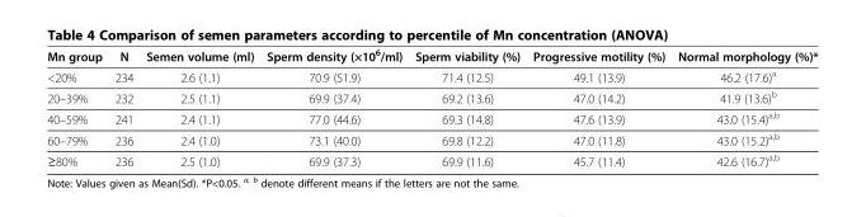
<table><thead><tr><td>Mn group</td><td>N</td><td>Semen volume (ml)</td><td>Sperm density (×10<sup>6</sup>/ml)</td><td>Sperm viability (%)</td><td>Progressive motility (%)</td><td>Normal morphology (%)*</td></tr></thead><tbody><tr><td>&lt;20%</td><td>234</td><td>2.6 (1.1)</td><td>70.9 (51.9)</td><td>71.4 (12.5)</td><td>49.1 (13.9)</td><td>46.2 (17.6)<sup>a</sup></td></tr><tr><td>20–39%</td><td>232</td><td>2.5 (1.1)</td><td>69.9 (37.4)</td><td>69.2 (13.6)</td><td>47.0 (14.2)</td><td>41.9 (13.6)<sup>b</sup></td></tr><tr><td>40–59%</td><td>241</td><td>2.4 (1.1)</td><td>77.0 (44.6)</td><td>69.3 (14.8)</td><td>47.6 (13.9)</td><td>43.0 (15.4)<sup>a,b</sup></td></tr><tr><td>60–79%</td><td>236</td><td>2.4 (1.0)</td><td>73.1 (40.0)</td><td>69.8 (12.2)</td><td>47.0 (11.8)</td><td>43.0 (15.2)<sup>a,b</sup></td></tr><tr><td>≥80%</td><td>236</td><td>2.5 (1.0)</td><td>69.9 (37.3)</td><td>69.9 (11.6)</td><td>45.7 (11.4)</td><td>42.6 (16.7)<sup>a,b</sup></td></tr></tbody></table>